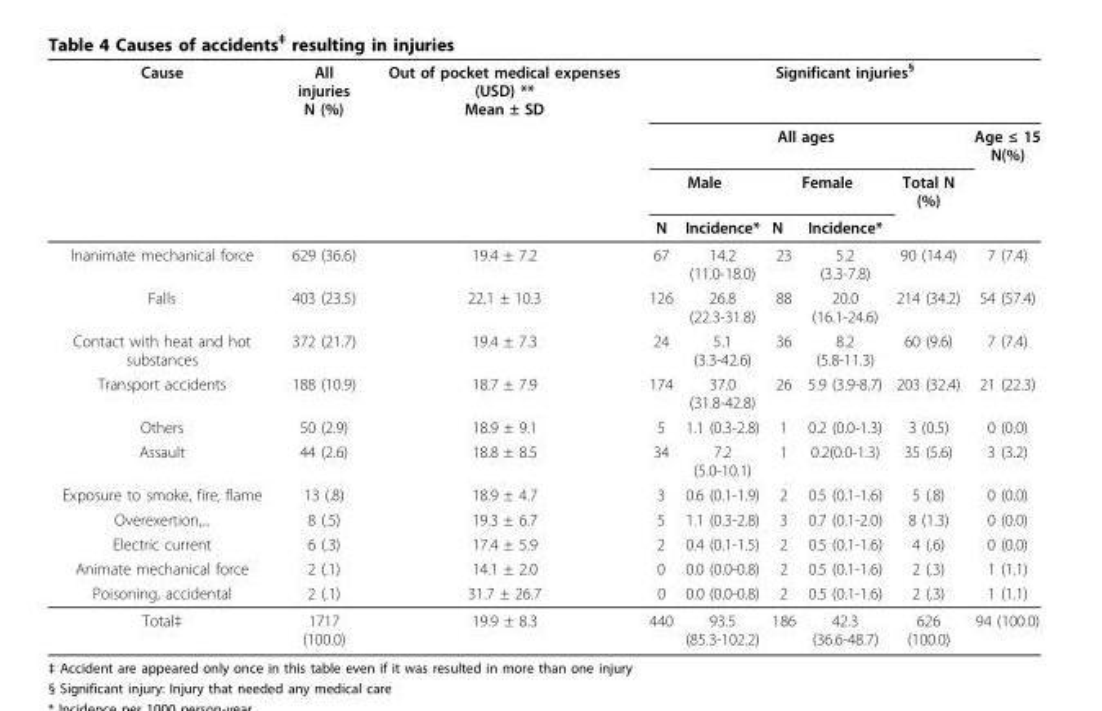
<table><thead><tr><td rowspan="4">Cause</td><td rowspan="4">All injuries N (%)</td><td rowspan="4">Out of pocket medical expenses (USD) ** Mean ± SD</td><td colspan="6">Significant injuries<sup>§</sup></td></tr><tr><td colspan="5">All ages</td><td rowspan="3">Age ≤ 15 N(%)</td></tr><tr><td colspan="2">Male</td><td colspan="2">Female</td><td rowspan="2">Total N (%)</td></tr><tr><td>N</td><td>Incidence*</td><td>N</td><td>Incidence*</td></tr></thead><tbody><tr><td>Inanimate mechanical force</td><td>629 (36.6)</td><td>19.4 ± 7.2</td><td>67</td><td>14.2 (11.0-18.0)</td><td>23</td><td>5.2 (3.3-7.8)</td><td>90 (14.4)</td><td>7 (7.4)</td></tr><tr><td>Falls</td><td>403 (23.5)</td><td>22.1 ± 10.3</td><td>126</td><td>26.8 (22.3-31.8)</td><td>88</td><td>20.0 (16.1-24.6)</td><td>214 (34.2)</td><td>54 (57.4)</td></tr><tr><td>Contact with heat and hot substances</td><td>372 (21.7)</td><td>19.4 ± 7.3</td><td>24</td><td>5.1 (3.3-42.6)</td><td>36</td><td>8.2 (5.8-11.3)</td><td>60 (9.6)</td><td>7 (7.4)</td></tr><tr><td>Transport accidents</td><td>188 (10.9)</td><td>18.7 ± 7.9</td><td>174</td><td>37.0 (31.8-42.8)</td><td>26</td><td>5.9 (3.9-8.7)</td><td>203 (32.4)</td><td>21 (22.3)</td></tr><tr><td>Others</td><td>50 (2.9)</td><td>18.9 ± 9.1</td><td>5</td><td>1.1 (0.3-2.8)</td><td>1</td><td>0.2 (0.0-1.3)</td><td>3 (0.5)</td><td>0 (0.0)</td></tr><tr><td>Assault</td><td>44 (2.6)</td><td>18.8 ± 8.5</td><td>34</td><td>7.2 (5.0-10.1)</td><td>1</td><td>0.2(0.0-1.3)</td><td>35 (5.6)</td><td>3 (3.2)</td></tr><tr><td>Exposure to smoke, fire, flame</td><td>13 (.8)</td><td>18.9 ± 4.7</td><td>3</td><td>0.6 (0.1-1.9)</td><td>2</td><td>0.5 (0.1-1.6)</td><td>5 (.8)</td><td>0 (0.0)</td></tr><tr><td>Overexertion,...</td><td>8 (.5)</td><td>19.3 ± 6.7</td><td>5</td><td>1.1 (0.3-2.8)</td><td>3</td><td>0.7 (0.1-2.0)</td><td>8 (1.3)</td><td>0 (0.0)</td></tr><tr><td>Electric current</td><td>6 (.3)</td><td>17.4 ± 5.9</td><td>2</td><td>0.4 (0.1-1.5)</td><td>2</td><td>0.5 (0.1-1.6)</td><td>4 (.6)</td><td>0 (0.0)</td></tr><tr><td>Animate mechanical force</td><td>2 (.1)</td><td>14.1 ± 2.0</td><td>0</td><td>0.0 (0.0-0.8)</td><td>2</td><td>0.5 (0.1-1.6)</td><td>2 (.3)</td><td>1 (1.1)</td></tr><tr><td>Poisoning, accidental</td><td>2 (.1)</td><td>31.7 ± 26.7</td><td>0</td><td>0.0 (0.0-0.8)</td><td>2</td><td>0.5 (0.1-1.6)</td><td>2 (.3)</td><td>1 (1.1)</td></tr><tr><td>Total‡</td><td>1717 (100.0)</td><td>19.9 ± 8.3</td><td>440</td><td>93.5 (85.3-102.2)</td><td>186</td><td>42.3 (36.6-48.7)</td><td>626 (100.0)</td><td>94 (100.0)</td></tr></tbody></table>